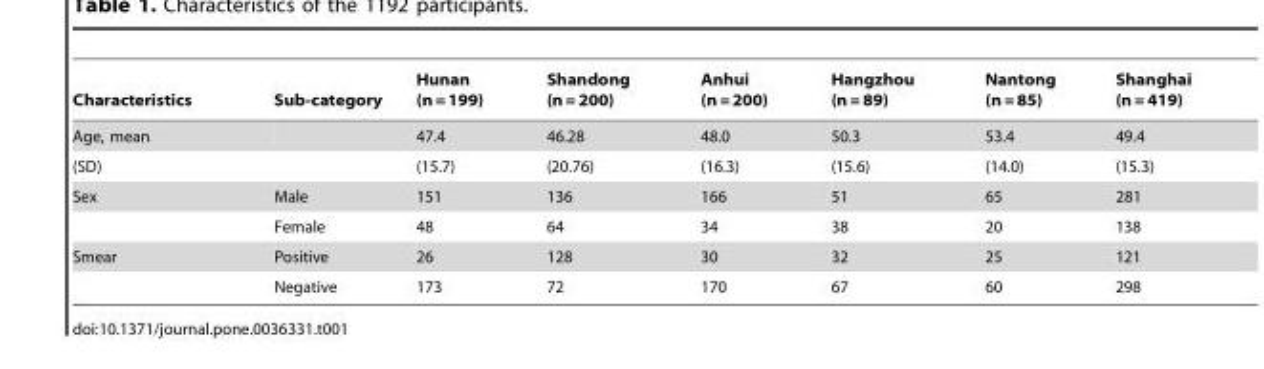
<table><thead><tr><td>Characteristics</td><td>Sub-category</td><td>Hunan (n = 199)</td><td>Shandong (n = 200)</td><td>Anhui (n = 200)</td><td>Hangzhou (n = 89)</td><td>Nantong (n = 85)</td><td>Shanghai (n = 419)</td></tr></thead><tbody><tr><td>Age, mean</td><td></td><td>47.4</td><td>46.28</td><td>48.0</td><td>50.3</td><td>53.4</td><td>49.4</td></tr><tr><td>(SD)</td><td></td><td>(15.7)</td><td>(20.76)</td><td>(16.3)</td><td>(15.6)</td><td>(14.0)</td><td>(15.3)</td></tr><tr><td rowspan="2">Sex</td><td>Male</td><td>151</td><td>136</td><td>166</td><td>51</td><td>65</td><td>281</td></tr><tr><td>Female</td><td>48</td><td>64</td><td>34</td><td>38</td><td>20</td><td>138</td></tr><tr><td rowspan="2">Smear</td><td>Positive</td><td>26</td><td>128</td><td>30</td><td>32</td><td>25</td><td>121</td></tr><tr><td>Negative</td><td>173</td><td>72</td><td>170</td><td>67</td><td>60</td><td>298</td></tr></tbody></table>